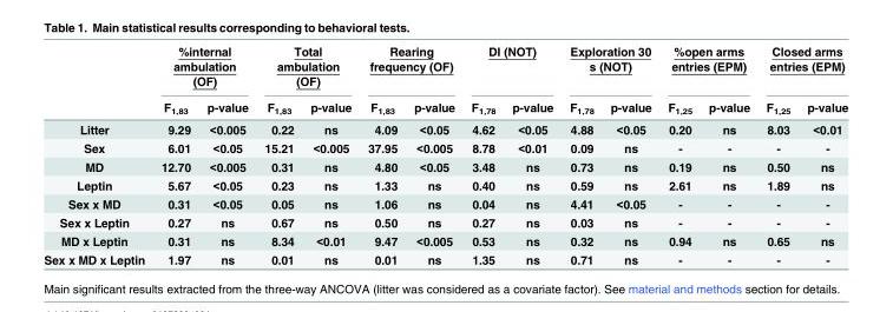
<table><thead><tr><td rowspan="2"></td><td colspan="2">%internal ambulation (OF)</td><td colspan="2">Total ambulation (OF)</td><td colspan="2">Rearing frequency (OF)</td><td colspan="2">DI (NOT)</td><td colspan="2">Exploration 30 s (NOT)</td><td colspan="2">%open arms entries (EPM)</td><td colspan="2">Closed arms entries (EPM)</td></tr><tr><td>F<sub>1,83</sub></td><td>p-value</td><td>F<sub>1,83</sub></td><td>p-value</td><td>F<sub>1,83</sub></td><td>p-value</td><td>F<sub>1,78</sub></td><td>p-value</td><td>F<sub>1,78</sub></td><td>p-value</td><td>F<sub>1,25</sub></td><td>p-value</td><td>F<sub>1,25</sub></td><td>p-value</td></tr></thead><tbody><tr><td>Litter</td><td>9.29</td><td>&lt;0.005</td><td>0.22</td><td>ns</td><td>4.09</td><td>&lt;0.05</td><td>4.62</td><td>&lt;0.05</td><td>4.88</td><td>&lt;0.05</td><td>0.20</td><td>ns</td><td>8.03</td><td>&lt;0.01</td></tr><tr><td>Sex</td><td>6.01</td><td>&lt;0.05</td><td>15.21</td><td>&lt;0.005</td><td>37.95</td><td>&lt;0.005</td><td>8.78</td><td>&lt;0.01</td><td>0.09</td><td>ns</td><td>-</td><td>-</td><td>-</td><td>-</td></tr><tr><td>MD</td><td>12.70</td><td>&lt;0.005</td><td>0.31</td><td>ns</td><td>4.80</td><td>&lt;0.05</td><td>3.48</td><td>ns</td><td>0.73</td><td>ns</td><td>0.19</td><td>ns</td><td>0.50</td><td>ns</td></tr><tr><td>Leptin</td><td>5.67</td><td>&lt;0.05</td><td>0.23</td><td>ns</td><td>1.33</td><td>ns</td><td>0.40</td><td>ns</td><td>0.59</td><td>ns</td><td>2.61</td><td>ns</td><td>1.89</td><td>ns</td></tr><tr><td>Sex x MD</td><td>0.31</td><td>&lt;0.05</td><td>0.05</td><td>ns</td><td>1.06</td><td>ns</td><td>0.04</td><td>ns</td><td>4.41</td><td>&lt;0.05</td><td>-</td><td>-</td><td>-</td><td>-</td></tr><tr><td>Sex x Leptin</td><td>0.27</td><td>ns</td><td>0.67</td><td>ns</td><td>0.50</td><td>ns</td><td>0.27</td><td>ns</td><td>0.03</td><td>ns</td><td>-</td><td>-</td><td>-</td><td>-</td></tr><tr><td>MD x Leptin</td><td>0.31</td><td>ns</td><td>8.34</td><td>&lt;0.01</td><td>9.47</td><td>&lt;0.005</td><td>0.53</td><td>ns</td><td>0.32</td><td>ns</td><td>0.94</td><td>ns</td><td>0.65</td><td>ns</td></tr><tr><td>Sex x MD x Leptin</td><td>1.97</td><td>ns</td><td>0.01</td><td>ns</td><td>0.01</td><td>ns</td><td>1.35</td><td>ns</td><td>0.71</td><td>ns</td><td>-</td><td>-</td><td>-</td><td>-</td></tr></tbody></table>